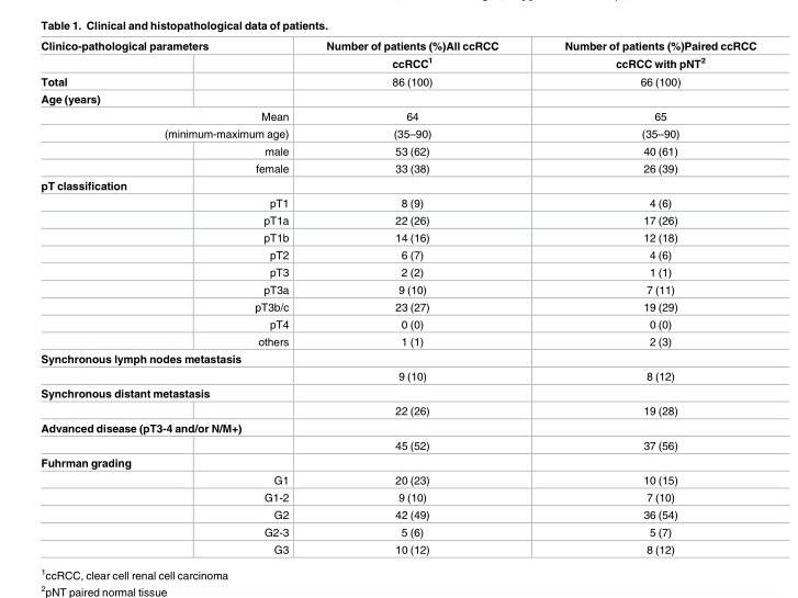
<table><thead><tr><td colspan="2">Clinico-pathological parameters</td><td rowspan="2">Number of patients (%)All ccRCC ccRCC<sup>1</sup></td><td rowspan="2">Number of patients (%)Paired ccRCC ccRCC with pNT<sup>2</sup></td></tr><tr><td></td><td></td></tr></thead><tbody><tr><td>Total</td><td></td><td>86 (100)</td><td>66 (100)</td></tr><tr><td colspan="4">Age (years)</td></tr><tr><td colspan="2">Mean</td><td>64</td><td>65</td></tr><tr><td colspan="2">(minimum-maximum age)</td><td>(35–90)</td><td>(35–90)</td></tr><tr><td></td><td>male</td><td>53 (62)</td><td>40 (61)</td></tr><tr><td></td><td>female</td><td>33 (38)</td><td>26 (39)</td></tr><tr><td colspan="4">pT classification</td></tr><tr><td></td><td>pT1</td><td>8 (9)</td><td>4 (6)</td></tr><tr><td></td><td>pT1a</td><td>22 (26)</td><td>17 (26)</td></tr><tr><td></td><td>pT1b</td><td>14 (16)</td><td>12 (18)</td></tr><tr><td></td><td>pT2</td><td>6 (7)</td><td>4 (6)</td></tr><tr><td></td><td>pT3</td><td>2 (2)</td><td>1 (1)</td></tr><tr><td></td><td>pT3a</td><td>9 (10)</td><td>7 (11)</td></tr><tr><td></td><td>pT3b/c</td><td>23 (27)</td><td>19 (29)</td></tr><tr><td></td><td>pT4</td><td>0 (0)</td><td>0 (0)</td></tr><tr><td></td><td>others</td><td>1 (1)</td><td>2 (3)</td></tr><tr><td colspan="4">Synchronous lymph nodes metastasis</td></tr><tr><td colspan="2"></td><td>9 (10)</td><td>8 (12)</td></tr><tr><td colspan="4">Synchronous distant metastasis</td></tr><tr><td></td><td></td><td>22 (26)</td><td>19 (28)</td></tr><tr><td colspan="4">Advanced disease (pT3-4 and/or N/M+)</td></tr><tr><td></td><td></td><td>45 (52)</td><td>37 (56)</td></tr><tr><td colspan="4">Fuhrman grading</td></tr><tr><td></td><td>G1</td><td>20 (23)</td><td>10 (15)</td></tr><tr><td></td><td>G1-2</td><td>9 (10)</td><td>7 (10)</td></tr><tr><td></td><td>G2</td><td>42 (49)</td><td>36 (54)</td></tr><tr><td></td><td>G2-3</td><td>5 (6)</td><td>5 (7)</td></tr><tr><td></td><td>G3</td><td>10 (12)</td><td>8 (12)</td></tr></tbody></table>